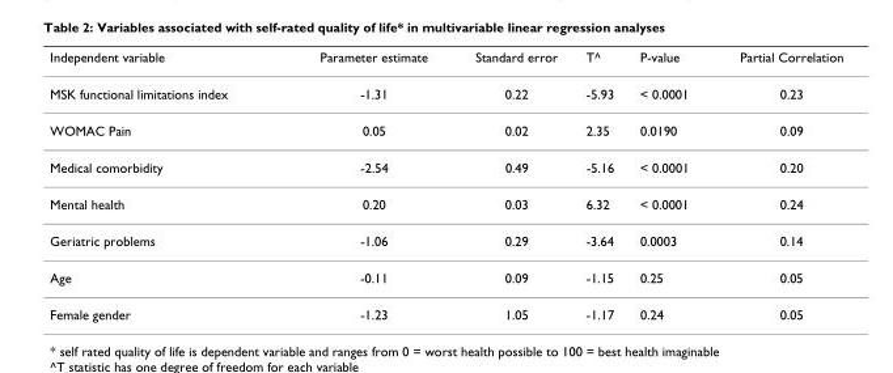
<table><thead><tr><td>Independent variable</td><td>Parameter estimate</td><td>Standard error</td><td>T^</td><td>P-value</td><td>Partial Correlation</td></tr></thead><tbody><tr><td>MSK functional limitations index</td><td>-1.31</td><td>0.22</td><td>-5.93</td><td>&lt; 0.0001</td><td>0.23</td></tr><tr><td>WOMAC Pain</td><td>0.05</td><td>0.02</td><td>2.35</td><td>0.0190</td><td>0.09</td></tr><tr><td>Medical comorbidity</td><td>-2.54</td><td>0.49</td><td>-5.16</td><td>&lt; 0.0001</td><td>0.20</td></tr><tr><td>Mental health</td><td>0.20</td><td>0.03</td><td>6.32</td><td>&lt; 0.0001</td><td>0.24</td></tr><tr><td>Geriatric problems</td><td>-1.06</td><td>0.29</td><td>-3.64</td><td>0.0003</td><td>0.14</td></tr><tr><td>Age</td><td>-0.11</td><td>0.09</td><td>-1.15</td><td>0.25</td><td>0.05</td></tr><tr><td>Female gender</td><td>-1.23</td><td>1.05</td><td>-1.17</td><td>0.24</td><td>0.05</td></tr></tbody></table>